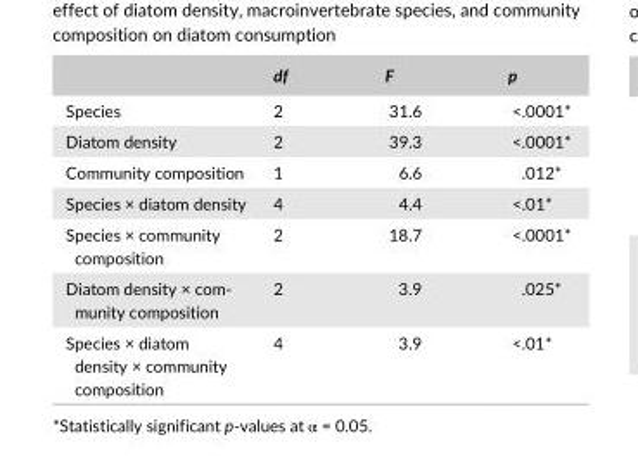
<table><thead><tr><td></td><td>df</td><td>F</td><td>p</td></tr></thead><tbody><tr><td>Species</td><td>2</td><td>31.6</td><td>&lt;.0001*</td></tr><tr><td>Diatom density</td><td>2</td><td>39.3</td><td>&lt;.0001*</td></tr><tr><td>Community composition</td><td>1</td><td>6.6</td><td>.012*</td></tr><tr><td>Species × diatom density</td><td>4</td><td>4.4</td><td>&lt;.01*</td></tr><tr><td>Species × community composition</td><td>2</td><td>18.7</td><td>&lt;.0001*</td></tr><tr><td>Diatom density × com- munity composition</td><td>2</td><td>3.9</td><td>.025*</td></tr><tr><td>Species × diatom density × community composition</td><td>4</td><td>3.9</td><td>&lt;.01*</td></tr></tbody></table>